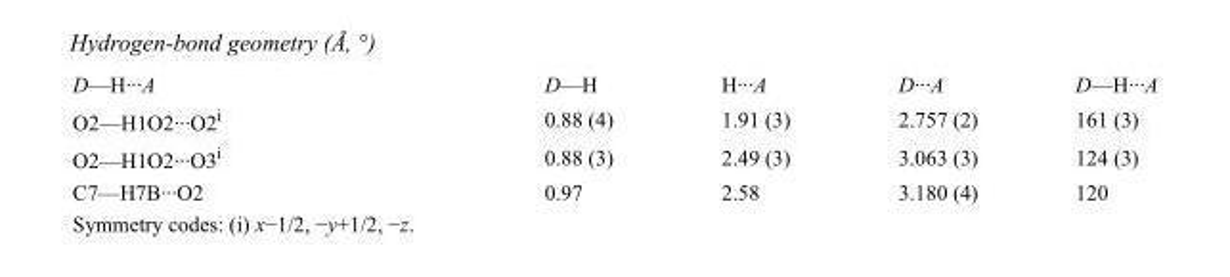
<table><tbody><tr><td>D—H···A</td><td>D—H</td><td>H···A</td><td>D···A</td><td>D—H···A</td></tr><tr><td>O2—H1O2···O2<sup>i</sup></td><td>0.88 (4)</td><td>1.91 (3)</td><td>2.757 (2)</td><td>161 (3)</td></tr><tr><td>O2—H1O2···O3<sup>i</sup></td><td>0.88 (3)</td><td>2.49 (3)</td><td>3.063 (3)</td><td>124 (3)</td></tr><tr><td>C7—H7B···O2</td><td>0.97</td><td>2.58</td><td>3.180 (4)</td><td>120</td></tr></tbody></table>